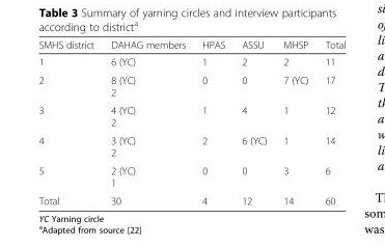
<table><thead><tr><td>SMHS district</td><td>DAHAG members</td><td>HPAS</td><td>ASSU</td><td>MHSP</td><td>Total</td></tr></thead><tbody><tr><td>1</td><td>6 (YC)</td><td>1</td><td>2</td><td>2</td><td>11</td></tr><tr><td>2</td><td>8 (YC) 2</td><td>0</td><td>0</td><td>7 (YC)</td><td>17</td></tr><tr><td>3</td><td>4 (YC) 2</td><td>1</td><td>4</td><td>1</td><td>12</td></tr><tr><td>4</td><td>3 (YC) 2</td><td>2</td><td>6 (YC)</td><td>1</td><td>14</td></tr><tr><td>5</td><td>2 (YC) 1</td><td>0</td><td>0</td><td>3</td><td>6</td></tr><tr><td>Total</td><td>30</td><td>4</td><td>12</td><td>14</td><td>60</td></tr></tbody></table>